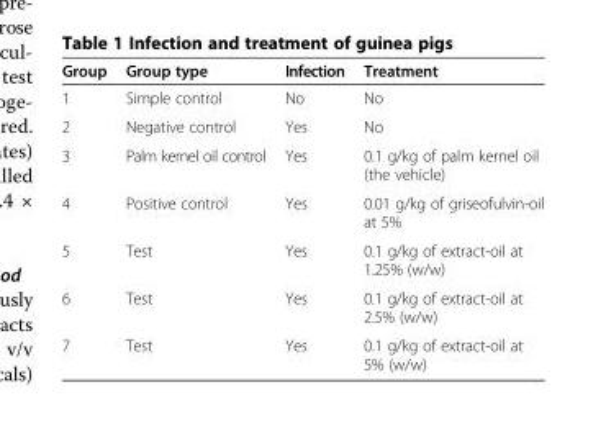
<table><thead><tr><td>Group</td><td>Group type</td><td>Infection</td><td>Treatment</td></tr></thead><tbody><tr><td>1</td><td>Simple control</td><td>No</td><td>No</td></tr><tr><td>2</td><td>Negative control</td><td>Yes</td><td>No</td></tr><tr><td>3</td><td>Palm kernel oil control</td><td>Yes</td><td>0.1 g/kg of palm kernel oil (the vehicle)</td></tr><tr><td>4</td><td>Positive control</td><td>Yes</td><td>0.01 g/kg of griseofulvin-oil at 5%</td></tr><tr><td>5</td><td>Test</td><td>Yes</td><td>0.1 g/kg of extract-oil at 1.25% (w/w)</td></tr><tr><td>6</td><td>Test</td><td>Yes</td><td>0.1 g/kg of extract-oil at 2.5% (w/w)</td></tr><tr><td>7</td><td>Test</td><td>Yes</td><td>0.1 g/kg of extract-oil at 5% (w/w)</td></tr></tbody></table>